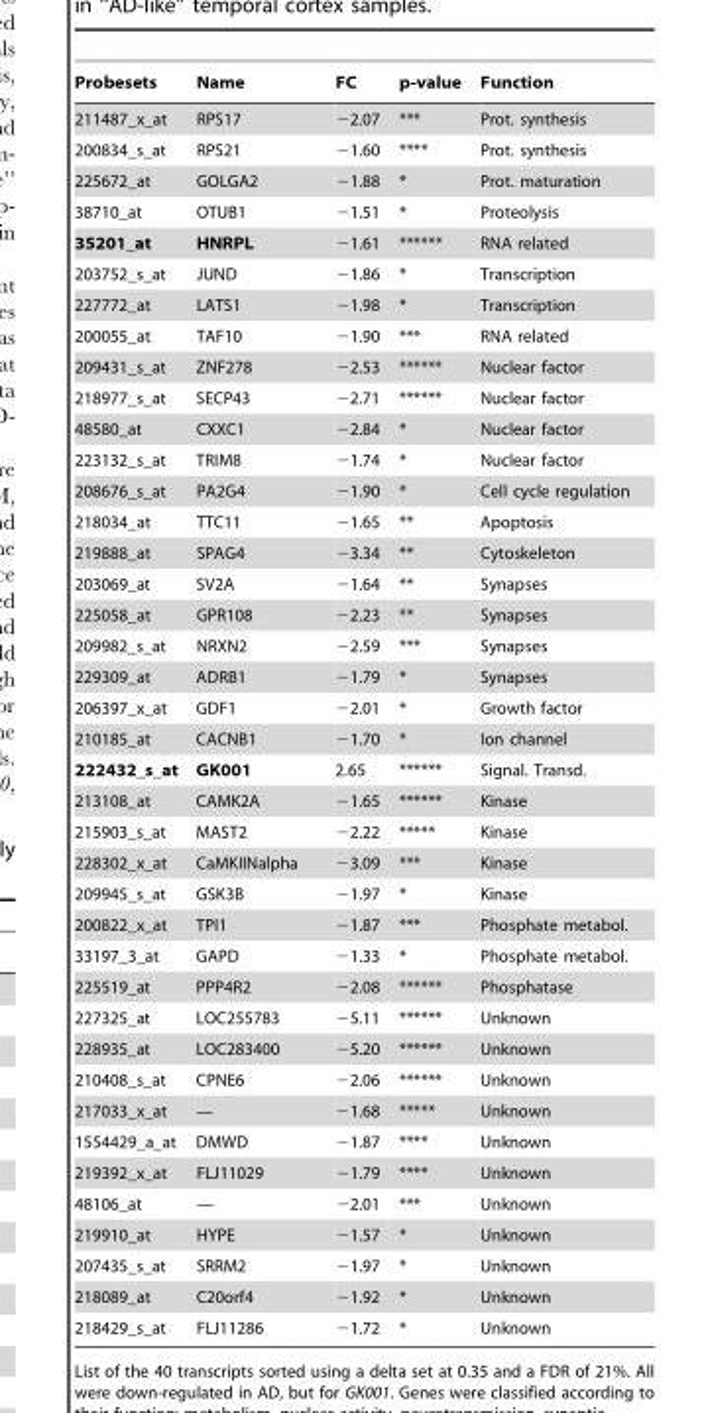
<table><thead><tr><td>Probesets</td><td>Name</td><td>FC</td><td>p-value</td><td>Function</td></tr></thead><tbody><tr><td>211487_x_at</td><td>RPS17</td><td>−2.07</td><td>***</td><td>Prot. synthesis</td></tr><tr><td>200834_s_at</td><td>RPS21</td><td>−1.60</td><td>****</td><td>Prot. synthesis</td></tr><tr><td>225672_at</td><td>GOLGA2</td><td>−1.88</td><td>*</td><td>Prot. maturation</td></tr><tr><td>38710_at</td><td>OTUB1</td><td>−1.51</td><td>*</td><td>Proteolysis</td></tr><tr><td>35201_at</td><td>HNRPL</td><td>−1.61</td><td>******</td><td>RNA related</td></tr><tr><td>203752_s_at</td><td>JUND</td><td>−1.86</td><td>*</td><td>Transcription</td></tr><tr><td>227772_at</td><td>LATS1</td><td>−1.98</td><td>*</td><td>Transcription</td></tr><tr><td>200055_at</td><td>TAF10</td><td>−1.90</td><td>***</td><td>RNA related</td></tr><tr><td>209431_s_at</td><td>ZNF278</td><td>−2.53</td><td>******</td><td>Nuclear factor</td></tr><tr><td>218977_s_at</td><td>SECP43</td><td>−2.71</td><td>******</td><td>Nuclear factor</td></tr><tr><td>48580_at</td><td>CXXC1</td><td>−2.84</td><td>*</td><td>Nuclear factor</td></tr><tr><td>223132_s_at</td><td>TRIM8</td><td>−1.74</td><td>*</td><td>Nuclear factor</td></tr><tr><td>208676_s_at</td><td>PA2G4</td><td>−1.90</td><td>*</td><td>Cell cycle regulation</td></tr><tr><td>218034_at</td><td>TTC11</td><td>−1.65</td><td>**</td><td>Apoptosis</td></tr><tr><td>219888_at</td><td>SPAG4</td><td>−3.34</td><td>**</td><td>Cytoskeleton</td></tr><tr><td>203069_at</td><td>SV2A</td><td>−1.64</td><td>**</td><td>Synapses</td></tr><tr><td>225058_at</td><td>GPR108</td><td>−2.23</td><td>**</td><td>Synapses</td></tr><tr><td>209982_s_at</td><td>NRXN2</td><td>−2.59</td><td>***</td><td>Synapses</td></tr><tr><td>229309_at</td><td>ADRB1</td><td>−1.79</td><td>*</td><td>Synapses</td></tr><tr><td>206397_x_at</td><td>GDF1</td><td>−2.01</td><td>*</td><td>Growth factor</td></tr><tr><td>210185_at</td><td>CACNB1</td><td>−1.70</td><td>*</td><td>Ion channel</td></tr><tr><td>222432_s_at</td><td>GK001</td><td>2.65</td><td>******</td><td>Signal. Transd.</td></tr><tr><td>213108_at</td><td>CAMK2A</td><td>−1.65</td><td>******</td><td>Kinase</td></tr><tr><td>215903_s_at</td><td>MAST2</td><td>−2.22</td><td>*****</td><td>Kinase</td></tr><tr><td>228302_x_at</td><td>CaMKIINalpha</td><td>−3.09</td><td>***</td><td>Kinase</td></tr><tr><td>209945_s_at</td><td>GSK3B</td><td>−1.97</td><td>*</td><td>Kinase</td></tr><tr><td>200822_x_at</td><td>TPI1</td><td>−1.87</td><td>***</td><td>Phosphate metabol.</td></tr><tr><td>33197_3_at</td><td>GAPD</td><td>−1.33</td><td>*</td><td>Phosphate metabol.</td></tr><tr><td>225519_at</td><td>PPP4R2</td><td>−2.08</td><td>******</td><td>Phosphatase</td></tr><tr><td>227325_at</td><td>LOC255783</td><td>−5.11</td><td>******</td><td>Unknown</td></tr><tr><td>228935_at</td><td>LOC283400</td><td>−5.20</td><td>******</td><td>Unknown</td></tr><tr><td>210408_s_at</td><td>CPNE6</td><td>−2.06</td><td>******</td><td>Unknown</td></tr><tr><td>217033_x_at</td><td>—</td><td>−1.68</td><td>*****</td><td>Unknown</td></tr><tr><td>1554429_a_at</td><td>DMWD</td><td>−1.87</td><td>****</td><td>Unknown</td></tr><tr><td>219392_x_at</td><td>FLJ11029</td><td>−1.79</td><td>****</td><td>Unknown</td></tr><tr><td>48106_at</td><td>—</td><td>−2.01</td><td>***</td><td>Unknown</td></tr><tr><td>219910_at</td><td>HYPE</td><td>−1.57</td><td>*</td><td>Unknown</td></tr><tr><td>207435_s_at</td><td>SRRM2</td><td>−1.97</td><td>*</td><td>Unknown</td></tr><tr><td>218089_at</td><td>C20orf4</td><td>−1.92</td><td>*</td><td>Unknown</td></tr><tr><td>218429_s_at</td><td>FLJ11286</td><td>−1.72</td><td>*</td><td>Unknown</td></tr></tbody></table>